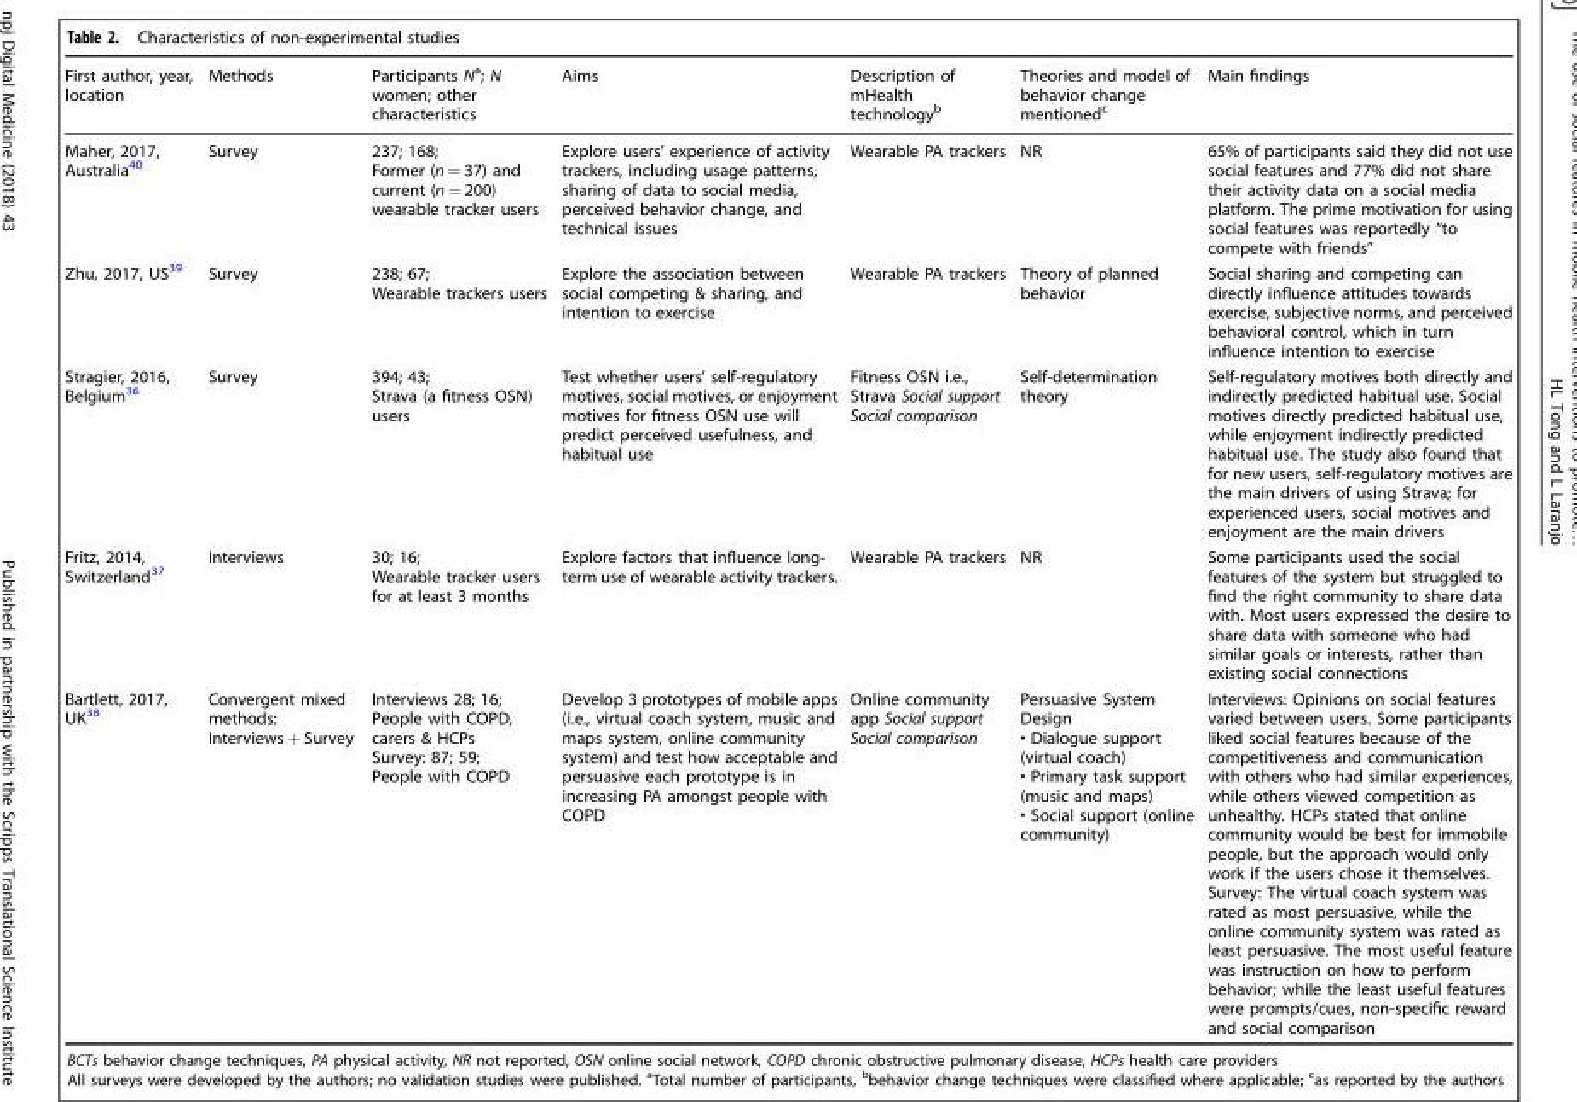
<table><thead><tr><td>First author, year, location</td><td>Methods</td><td>Participants N<sup>a</sup>; N women; other characteristics</td><td>Aims</td><td>Description of mHealth technology<sup>b</sup></td><td>Theories and model of behavior change mentioned<sup>c</sup></td><td>Main findings</td></tr></thead><tbody><tr><td>Maher, 2017, Australia<sup>40</sup></td><td>Survey</td><td>237; 168; Former (n = 37) and current (n = 200) wearable tracker users</td><td>Explore users’ experience of activity trackers, including usage patterns, sharing of data to social media, perceived behavior change, and technical issues</td><td>Wearable PA trackers</td><td>NR</td><td>65% of participants said they did not use social features and 77% did not share their activity data on a social media platform. The prime motivation for using social features was reportedly “to compete with friends”</td></tr><tr><td>Zhu, 2017, US<sup>39</sup></td><td>Survey</td><td>238; 67; Wearable trackers users</td><td>Explore the association between social competing &amp; sharing, and intention to exercise</td><td>Wearable PA trackers</td><td>Theory of planned behavior</td><td>Social sharing and competing can directly influence attitudes towards exercise, subjective norms, and perceived behavioral control, which in turn influence intention to exercise</td></tr><tr><td>Stragier, 2016, Belgium<sup>36</sup></td><td>Survey</td><td>394; 43; Strava (a fitness OSN) users</td><td>Test whether users’ self-regulatory motives, social motives, or enjoyment motives for fitness OSN use will predict perceived usefulness, and habitual use</td><td>Fitness OSN i.e., Strava Social support Social comparison</td><td>Self-determination theory</td><td>Self-regulatory motives both directly and indirectly predicted habitual use. Social motives directly predicted habitual use, while enjoyment indirectly predicted habitual use. The study also found that for new users, self-regulatory motives are the main drivers of using Strava; for experienced users, social motives and enjoyment are the main drivers</td></tr><tr><td>Fritz, 2014, Switzerland<sup>37</sup></td><td>Interviews</td><td>30; 16; Wearable tracker users for at least 3 months</td><td>Explore factors that influence long- term use of wearable activity trackers.</td><td>Wearable PA trackers</td><td>NR</td><td>Some participants used the social features of the system but struggled to find the right community to share data with. Most users expressed the desire to share data with someone who had similar goals or interests, rather than existing social connections</td></tr><tr><td>Bartlett, 2017, UK<sup>38</sup></td><td>Convergent mixed methods: Interviews + Survey</td><td>Interviews 28; 16; People with COPD, carers &amp; HCPs Survey: 87; 59; People with COPD</td><td>Develop 3 prototypes of mobile apps (i.e., virtual coach system, music and maps system, online community system) and test how acceptable and persuasive each prototype is in increasing PA amongst people with COPD</td><td>Online community app Social support Social comparison</td><td>Persuasive System Design • Dialogue support (virtual coach) • Primary task support (music and maps) • Social support (online community)</td><td>Interviews: Opinions on social features varied between users. Some participants liked social features because of the competitiveness and communication with others who had similar experiences, while others viewed competition as unhealthy. HCPs stated that online community would be best for immobile people, but the approach would only work if the users chose it themselves. Survey: The virtual coach system was rated as most persuasive, while the online community system was rated as least persuasive. The most useful feature was instruction on how to perform behavior; while the least useful features were prompts/cues, non-specific reward and social comparison</td></tr></tbody></table>